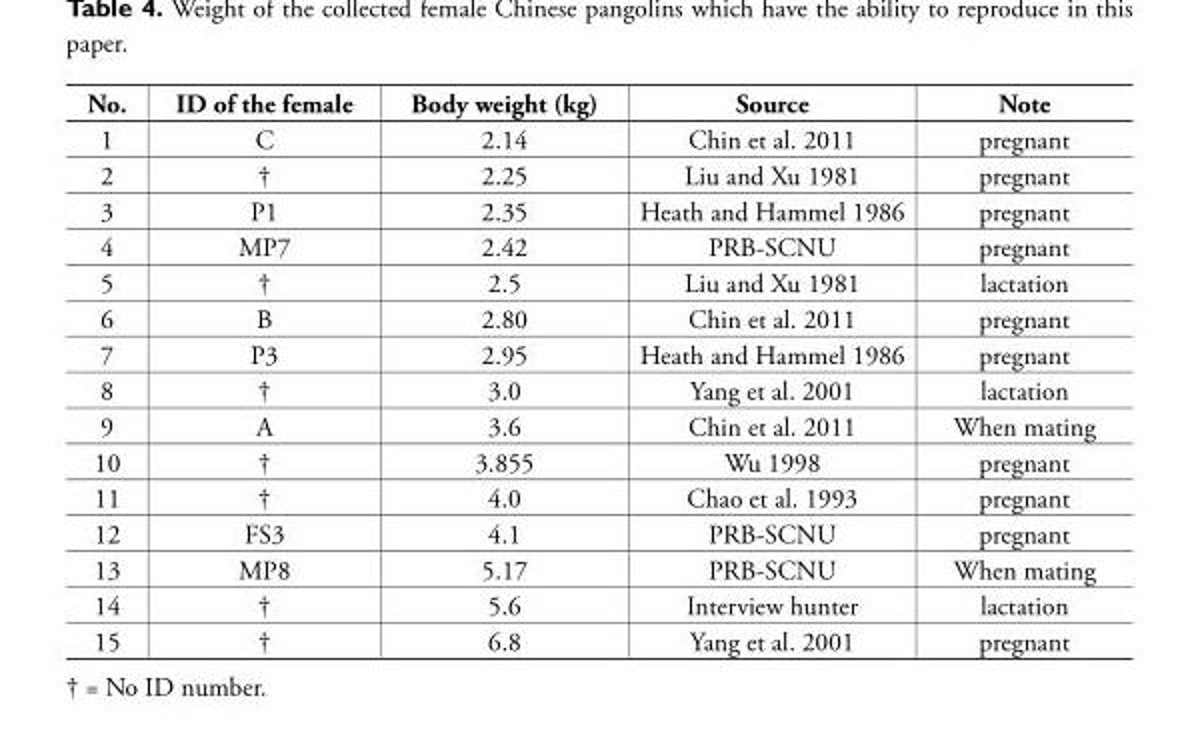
<table><thead><tr><td>No.</td><td>ID of the female</td><td>Body weight (kg)</td><td>Source</td><td>Note</td></tr></thead><tbody><tr><td>1</td><td>C</td><td>2.14</td><td>Chin et al. 2011</td><td>pregnant</td></tr><tr><td>2</td><td>†</td><td>2.25</td><td>Liu and Xu 1981</td><td>pregnant</td></tr><tr><td>3</td><td>P1</td><td>2.35</td><td>Heath and Hammel 1986</td><td>pregnant</td></tr><tr><td>4</td><td>MP7</td><td>2.42</td><td>PRB-SCNU</td><td>pregnant</td></tr><tr><td>5</td><td>†</td><td>2.5</td><td>Liu and Xu 1981</td><td>lactation</td></tr><tr><td>6</td><td>B</td><td>2.80</td><td>Chin et al. 2011</td><td>pregnant</td></tr><tr><td>7</td><td>P3</td><td>2.95</td><td>Heath and Hammel 1986</td><td>pregnant</td></tr><tr><td>8</td><td>†</td><td>3.0</td><td>Yang et al. 2001</td><td>lactation</td></tr><tr><td>9</td><td>A</td><td>3.6</td><td>Chin et al. 2011</td><td>When mating</td></tr><tr><td>10</td><td>†</td><td>3.855</td><td>Wu 1998</td><td>pregnant</td></tr><tr><td>11</td><td>†</td><td>4.0</td><td>Chao et al. 1993</td><td>pregnant</td></tr><tr><td>12</td><td>FS3</td><td>4.1</td><td>PRB-SCNU</td><td>pregnant</td></tr><tr><td>13</td><td>MP8</td><td>5.17</td><td>PRB-SCNU</td><td>When mating</td></tr><tr><td>14</td><td>†</td><td>5.6</td><td>Interview hunter</td><td>lactation</td></tr><tr><td>15</td><td>†</td><td>6.8</td><td>Yang et al. 2001</td><td>pregnant</td></tr></tbody></table>